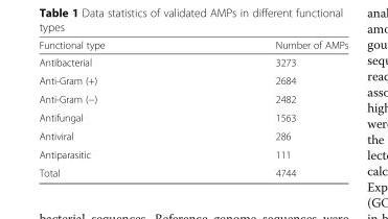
<table><thead><tr><td>Functional type</td><td>Number of AMPs</td></tr></thead><tbody><tr><td>Antibacterial</td><td>3273</td></tr><tr><td>Anti-Gram (+)</td><td>2684</td></tr><tr><td>Anti-Gram (−)</td><td>2482</td></tr><tr><td>Antifungal</td><td>1563</td></tr><tr><td>Antiviral</td><td>286</td></tr><tr><td>Antiparasitic</td><td>111</td></tr><tr><td>Total</td><td>4744</td></tr></tbody></table>